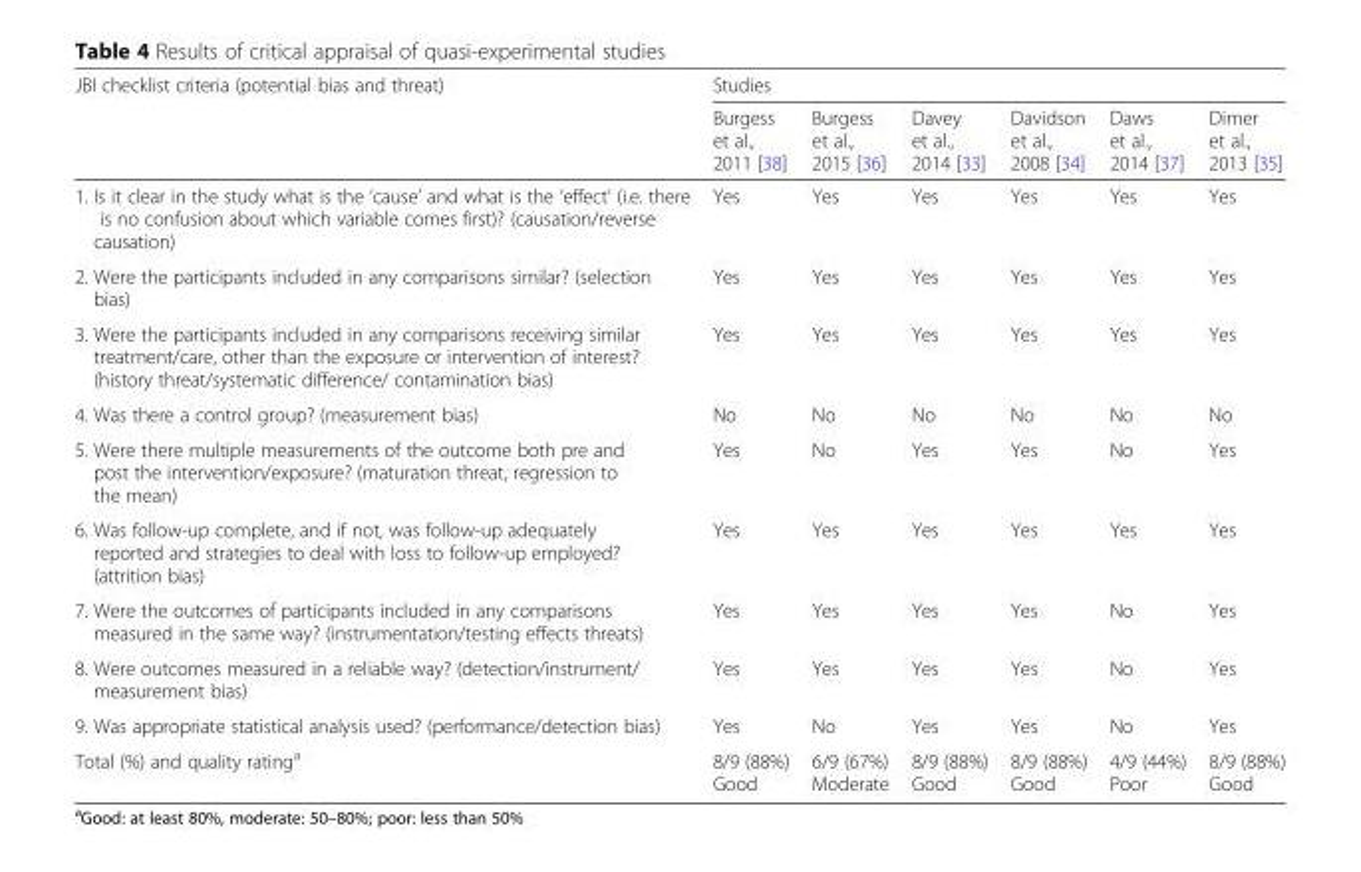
<table><thead><tr><td rowspan="2">JBI checklist criteria (potential bias and threat)</td><td colspan="6">Studies</td></tr><tr><td>Burgess et al., 2011 [38]</td><td>Burgess et al., 2015 [36]</td><td>Davey et al., 2014 [33]</td><td>Davidson et al., 2008 [34]</td><td>Daws et al., 2014 [37]</td><td>Dimer et al., 2013 [35]</td></tr></thead><tbody><tr><td>1. Is it clear in the study what is the ‘cause’ and what is the ‘effect’ (i.e. there is no confusion about which variable comes first)? (causation/reverse causation)</td><td>Yes</td><td>Yes</td><td>Yes</td><td>Yes</td><td>Yes</td><td>Yes</td></tr><tr><td>2. Were the participants included in any comparisons similar? (selection bias)</td><td>Yes</td><td>Yes</td><td>Yes</td><td>Yes</td><td>Yes</td><td>Yes</td></tr><tr><td>3. Were the participants included in any comparisons receiving similar treatment/care, other than the exposure or intervention of interest? (history threat/systematic difference/ contamination bias)</td><td>Yes</td><td>Yes</td><td>Yes</td><td>Yes</td><td>Yes</td><td>Yes</td></tr><tr><td>4. Was there a control group? (measurement bias)</td><td>No</td><td>No</td><td>No</td><td>No</td><td>No</td><td>No</td></tr><tr><td>5. Were there multiple measurements of the outcome both pre and post the intervention/exposure? (maturation threat, regression to the mean)</td><td>Yes</td><td>No</td><td>Yes</td><td>Yes</td><td>No</td><td>Yes</td></tr><tr><td>6. Was follow-up complete, and if not, was follow-up adequately reported and strategies to deal with loss to follow-up employed? (attrition bias)</td><td>Yes</td><td>Yes</td><td>Yes</td><td>Yes</td><td>Yes</td><td>Yes</td></tr><tr><td>7. Were the outcomes of participants included in any comparisons measured in the same way? (instrumentation/testing effects threats)</td><td>Yes</td><td>Yes</td><td>Yes</td><td>Yes</td><td>No</td><td>Yes</td></tr><tr><td>8. Were outcomes measured in a reliable way? (detection/instrument/ measurement bias)</td><td>Yes</td><td>Yes</td><td>Yes</td><td>Yes</td><td>No</td><td>Yes</td></tr><tr><td>9. Was appropriate statistical analysis used? (performance/detection bias)</td><td>Yes</td><td>No</td><td>Yes</td><td>Yes</td><td>No</td><td>Yes</td></tr><tr><td>Total (%) and quality rating<sup>a</sup></td><td>8/9 (88%) Good</td><td>6/9 (67%) Moderate</td><td>8/9 (88%) Good</td><td>8/9 (88%) Good</td><td>4/9 (44%) Poor</td><td>8/9 (88%) Good</td></tr></tbody></table>